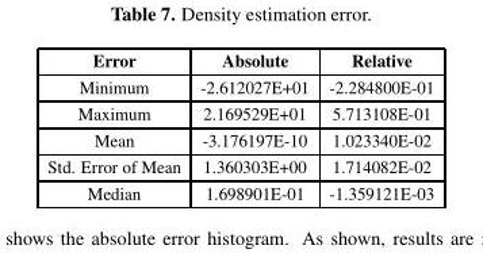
<table><thead><tr><td>Error</td><td>Absolute</td><td>Relative</td></tr></thead><tbody><tr><td>Minimum</td><td>-2.612027E+01</td><td>-2.284800E-01</td></tr><tr><td>Maximum</td><td>2.169529E+01</td><td>5.713108E-01</td></tr><tr><td>Mean</td><td>-3.176197E-10</td><td>1.023340E-02</td></tr><tr><td>Std. Error of Mean</td><td>1.360303E+00</td><td>1.714082E-02</td></tr><tr><td>Median</td><td>1.698901E-01</td><td>-1.359121E-03</td></tr></tbody></table>